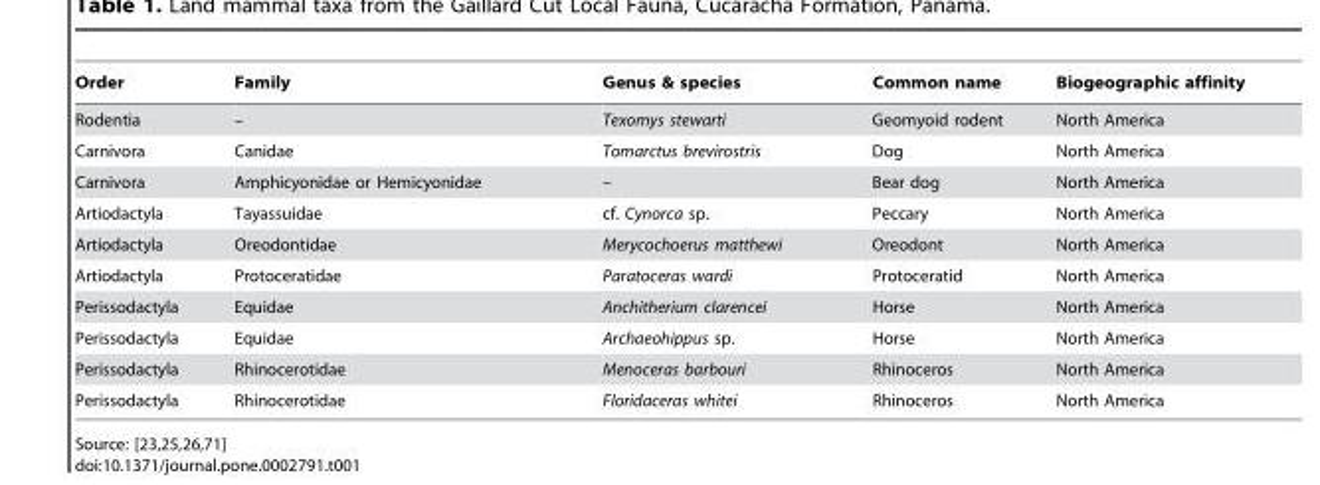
<table><thead><tr><td>Order</td><td>Family</td><td>Genus &amp; species</td><td>Common name</td><td>Biogeographic affinity</td></tr></thead><tbody><tr><td>Rodentia</td><td>–</td><td>Texomys stewarti</td><td>Geomyoid rodent</td><td>North America</td></tr><tr><td>Carnivora</td><td>Canidae</td><td>Tomarctus brevirostris</td><td>Dog</td><td>North America</td></tr><tr><td>Carnivora</td><td>Amphicyonidae or Hemicyonidae</td><td>–</td><td>Bear dog</td><td>North America</td></tr><tr><td>Artiodactyla</td><td>Tayassuidae</td><td>cf. Cynorca sp.</td><td>Peccary</td><td>North America</td></tr><tr><td>Artiodactyla</td><td>Oreodontidae</td><td>Merycochoerus matthewi</td><td>Oreodont</td><td>North America</td></tr><tr><td>Artiodactyla</td><td>Protoceratidae</td><td>Paratoceras wardi</td><td>Protoceratid</td><td>North America</td></tr><tr><td>Perissodactyla</td><td>Equidae</td><td>Anchitherium clarencei</td><td>Horse</td><td>North America</td></tr><tr><td>Perissodactyla</td><td>Equidae</td><td>Archaeohippus sp.</td><td>Horse</td><td>North America</td></tr><tr><td>Perissodactyla</td><td>Rhinocerotidae</td><td>Menoceras barbouri</td><td>Rhinoceros</td><td>North America</td></tr><tr><td>Perissodactyla</td><td>Rhinocerotidae</td><td>Floridaceras whitei</td><td>Rhinoceros</td><td>North America</td></tr></tbody></table>